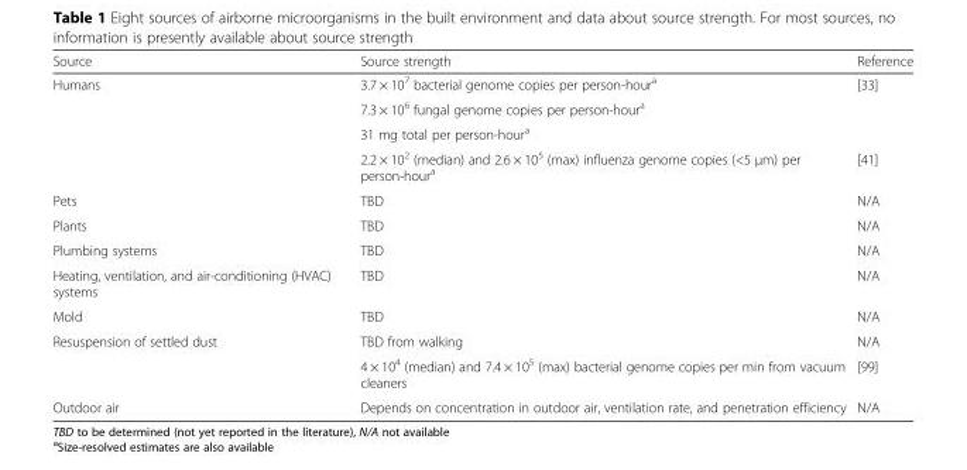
<table><thead><tr><td>Source</td><td>Source strength</td><td>Reference</td></tr></thead><tbody><tr><td rowspan="4">Humans</td><td>3.7 × 10<sup>7</sup> bacterial genome copies per person-hour<sup>a</sup></td><td rowspan="3">[33]</td></tr><tr><td>7.3 × 10<sup>6</sup> fungal genome copies per person-hour<sup>a</sup></td></tr><tr><td>31 mg total per person-hour<sup>a</sup></td></tr><tr><td>2.2 × 10<sup>2</sup> (median) and 2.6 × 10<sup>5</sup> (max) influenza genome copies (&lt;5 μm) per person-hour<sup>a</sup></td><td>[41]</td></tr><tr><td>Pets</td><td>TBD</td><td>N/A</td></tr><tr><td>Plants</td><td>TBD</td><td>N/A</td></tr><tr><td>Plumbing systems</td><td>TBD</td><td>N/A</td></tr><tr><td>Heating, ventilation, and air-conditioning (HVAC) systems</td><td>TBD</td><td>N/A</td></tr><tr><td>Mold</td><td>TBD</td><td>N/A</td></tr><tr><td rowspan="2">Resuspension of settled dust</td><td>TBD from walking</td><td>N/A</td></tr><tr><td>4 × 10<sup>4</sup> (median) and 7.4 × 10<sup>5</sup> (max) bacterial genome copies per min from vacuum cleaners</td><td>[99]</td></tr><tr><td>Outdoor air</td><td>Depends on concentration in outdoor air, ventilation rate, and penetration efficiency</td><td>N/A</td></tr></tbody></table>